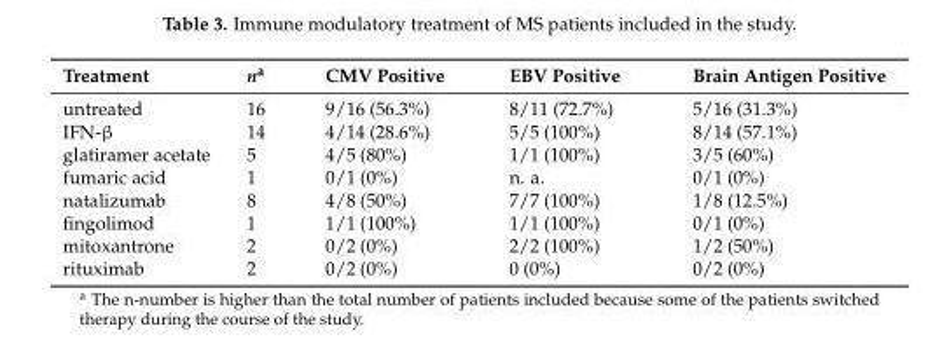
<table><thead><tr><td>Treatment</td><td>n<sup>a</sup></td><td>CMV Positive</td><td>EBV Positive</td><td>Brain Antigen Positive</td></tr></thead><tbody><tr><td>untreated</td><td>16</td><td>9/16 (56.3%)</td><td>8/11 (72.7%)</td><td>5/16 (31.3%)</td></tr><tr><td>IFN-β</td><td>14</td><td>4/14 (28.6%)</td><td>5/5 (100%)</td><td>8/14 (57.1%)</td></tr><tr><td>glatiramer acetate</td><td>5</td><td>4/5 (80%)</td><td>1/1 (100%)</td><td>3/5 (60%)</td></tr><tr><td>fumaric acid</td><td>1</td><td>0/1 (0%)</td><td>n. a.</td><td>0/1 (0%)</td></tr><tr><td>natalizumab</td><td>8</td><td>4/8 (50%)</td><td>7/7 (100%)</td><td>1/8 (12.5%)</td></tr><tr><td>fingolimod</td><td>1</td><td>1/1 (100%)</td><td>1/1 (100%)</td><td>0/1 (0%)</td></tr><tr><td>mitoxantrone</td><td>2</td><td>0/2 (0%)</td><td>2/2 (100%)</td><td>1/2 (50%)</td></tr><tr><td>rituximab</td><td>2</td><td>0/2 (0%)</td><td>0 (0%)</td><td>0/2 (0%)</td></tr></tbody></table>